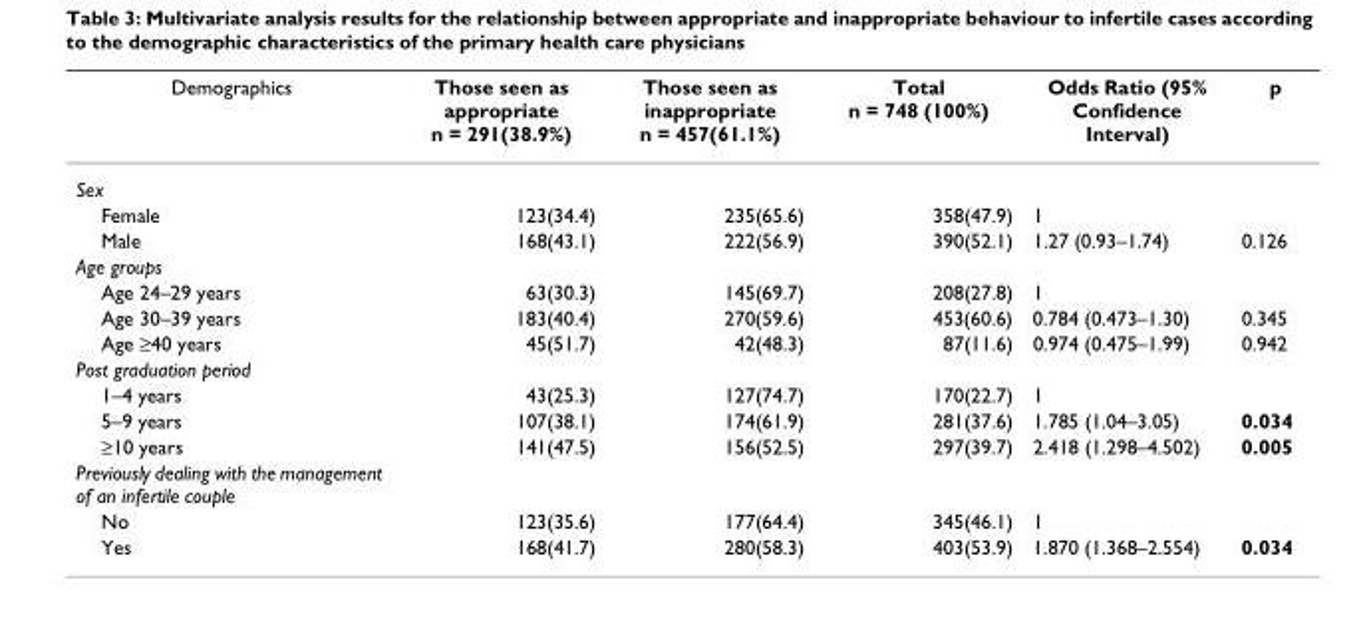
<table><thead><tr><td>Demographics</td><td>Those seen as appropriate n = 291(38.9%)</td><td>Those seen as inappropriate n = 457(61.1%)</td><td>Total n = 748 (100%)</td><td>Odds Ratio (95% Confidence Interval)</td><td>p</td></tr></thead><tbody><tr><td colspan="6">Sex</td></tr><tr><td>Female</td><td>123(34.4)</td><td>235(65.6)</td><td>358(47.9)</td><td>1</td><td></td></tr><tr><td>Male</td><td>168(43.1)</td><td>222(56.9)</td><td>390(52.1)</td><td>1.27 (0.93–1.74)</td><td>0.126</td></tr><tr><td colspan="6">Age groups</td></tr><tr><td>Age 24–29 years</td><td>63(30.3)</td><td>145(69.7)</td><td>208(27.8)</td><td>1</td><td></td></tr><tr><td>Age 30–39 years</td><td>183(40.4)</td><td>270(59.6)</td><td>453(60.6)</td><td>0.784 (0.473–1.30)</td><td>0.345</td></tr><tr><td>Age ≥40 years</td><td>45(51.7)</td><td>42(48.3)</td><td>87(11.6)</td><td>0.974 (0.475–1.99)</td><td>0.942</td></tr><tr><td colspan="6">Post graduation period</td></tr><tr><td>1–4 years</td><td>43(25.3)</td><td>127(74.7)</td><td>170(22.7)</td><td>1</td><td></td></tr><tr><td>5–9 years</td><td>107(38.1)</td><td>174(61.9)</td><td>281(37.6)</td><td>1.785 (1.04–3.05)</td><td>0.034</td></tr><tr><td>≥10 years</td><td>141(47.5)</td><td>156(52.5)</td><td>297(39.7)</td><td>2.418 (1.298–4.502)</td><td>0.005</td></tr><tr><td colspan="6">Previously dealing with the management of an infertile couple</td></tr><tr><td>No</td><td>123(35.6)</td><td>177(64.4)</td><td>345(46.1)</td><td>1</td><td></td></tr><tr><td>Yes</td><td>168(41.7)</td><td>280(58.3)</td><td>403(53.9)</td><td>1.870 (1.368–2.554)</td><td>0.034</td></tr></tbody></table>